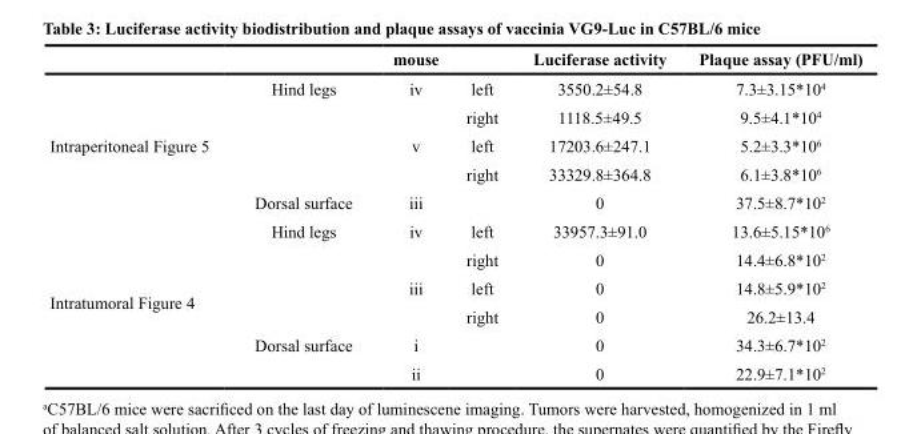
<table><thead><tr><td></td><td></td><td>mouse</td><td></td><td>Luciferase activity</td><td>Plaque assay (PFU/ml)</td></tr></thead><tbody><tr><td rowspan="5">Intraperitoneal Figure 5</td><td>Hind legs</td><td>iv</td><td>left</td><td>3550.2±54.8</td><td>7.3±3.15*10<sup>4</sup></td></tr><tr><td></td><td></td><td>right</td><td>1118.5±49.5</td><td>9.5±4.1*10<sup>4</sup></td></tr><tr><td></td><td>v</td><td>left</td><td>17203.6±247.1</td><td>5.2±3.3*10<sup>6</sup></td></tr><tr><td></td><td></td><td>right</td><td>33329.8±364.8</td><td>6.1±3.8*10<sup>6</sup></td></tr><tr><td>Dorsal surface</td><td>iii</td><td></td><td>0</td><td>37.5±8.7*10<sup>2</sup></td></tr><tr><td rowspan="6">Intratumoral Figure 4</td><td>Hind legs</td><td>iv</td><td>left</td><td>33957.3±91.0</td><td>13.6±5.15*10<sup>6</sup></td></tr><tr><td></td><td></td><td>right</td><td>0</td><td>14.4±6.8*10<sup>2</sup></td></tr><tr><td></td><td>iii</td><td>left</td><td>0</td><td>14.8±5.9*10<sup>2</sup></td></tr><tr><td></td><td></td><td>right</td><td>0</td><td>26.2±13.4</td></tr><tr><td>Dorsal surface</td><td>i</td><td></td><td>0</td><td>34.3±6.7*10<sup>2</sup></td></tr><tr><td></td><td>ii</td><td></td><td>0</td><td>22.9±7.1*10<sup>2</sup></td></tr></tbody></table>